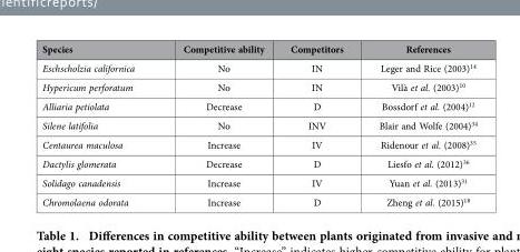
<table><thead><tr><td>Species</td><td>Competitive ability</td><td>Competitors</td><td>References</td></tr></thead><tbody><tr><td>Eschscholzia californica</td><td>No</td><td>IN</td><td>Leger and Rice (2003)<sup>14</sup></td></tr><tr><td>Hypericum perforatum</td><td>No</td><td>IN</td><td>Vilà et al. (2003)<sup>10</sup></td></tr><tr><td>Alliaria petiolata</td><td>Decrease</td><td>D</td><td>Bossdorf et al. (2004)<sup>12</sup></td></tr><tr><td>Silene latifolia</td><td>No</td><td>INV</td><td>Blair and Wolfe (2004)<sup>34</sup></td></tr><tr><td>Centaurea maculosa</td><td>Increase</td><td>IV</td><td>Ridenour et al. (2008)<sup>35</sup></td></tr><tr><td>Dactylis glomerata</td><td>Decrease</td><td>D</td><td>Liesfo et al. (2012)<sup>36</sup></td></tr><tr><td>Solidago canadensis</td><td>Increase</td><td>IV</td><td>Yuan et al. (2013)<sup>31</sup></td></tr><tr><td>Chromolaena odorata</td><td>Increase</td><td>D</td><td>Zheng et al. (2015)<sup>18</sup></td></tr></tbody></table>